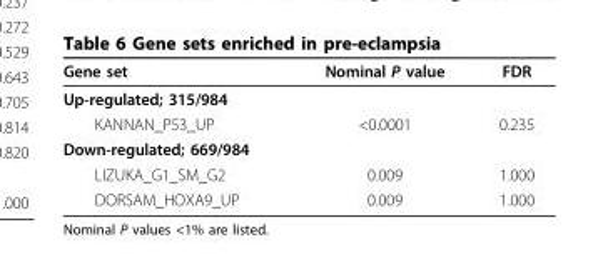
<table><thead><tr><td>Gene set</td><td>Nominal P value</td><td>FDR</td></tr></thead><tbody><tr><td colspan="3">Up-regulated; 315/984</td></tr><tr><td>KANNAN_P53_UP</td><td>&lt;0.0001</td><td>0.235</td></tr><tr><td colspan="3">Down-regulated; 669/984</td></tr><tr><td>LIZUKA_G1_SM_G2</td><td>0.009</td><td>1.000</td></tr><tr><td>DORSAM_HOXA9_UP</td><td>0.009</td><td>1.000</td></tr></tbody></table>